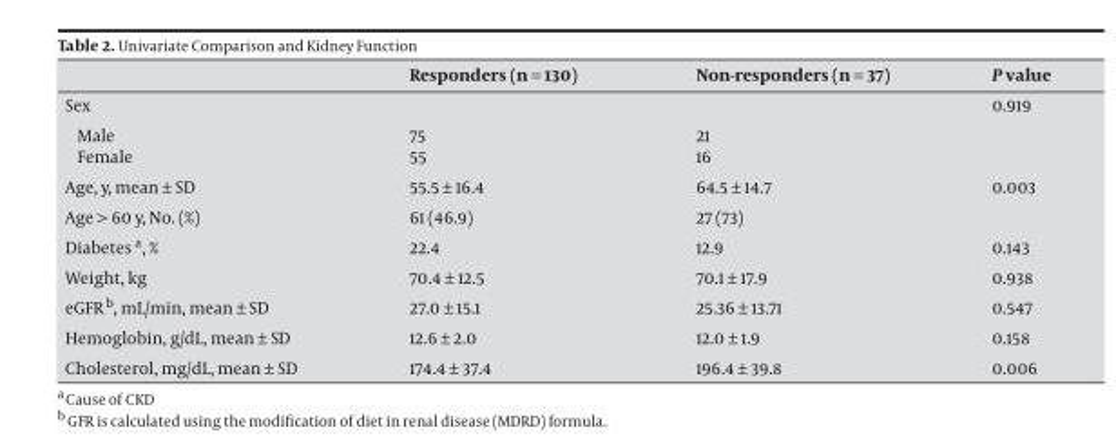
<table><thead><tr><td></td><td>Responders (n = 130)</td><td>Non-responders (n = 37)</td><td>P value</td></tr></thead><tbody><tr><td>Sex</td><td></td><td></td><td>0.919</td></tr><tr><td>Male</td><td>75</td><td>21</td><td></td></tr><tr><td>Female</td><td>55</td><td>16</td><td></td></tr><tr><td>Age, y, mean ± SD</td><td>55.5 ± 16.4</td><td>64.5 ± 14.7</td><td>0.003</td></tr><tr><td>Age &gt; 60 y, No. (%)</td><td>61 (46.9)</td><td>27 (73)</td><td></td></tr><tr><td>Diabetes a, %</td><td>22.4</td><td>12.9</td><td>0.143</td></tr><tr><td>Weight, kg</td><td>70.4 ± 12.5</td><td>70.1 ± 17.9</td><td>0.938</td></tr><tr><td>eGFR b, mL/min, mean ± SD</td><td>27.0 ± 15.1</td><td>25.36 ± 13.71</td><td>0.547</td></tr><tr><td>Hemoglobin, g/dL, mean ± SD</td><td>12.6 ± 2.0</td><td>12.0 ± 1.9</td><td>0.158</td></tr><tr><td>Cholesterol, mg/dL, mean ± SD</td><td>174.4 ± 37.4</td><td>196.4 ± 39.8</td><td>0.006</td></tr></tbody></table>